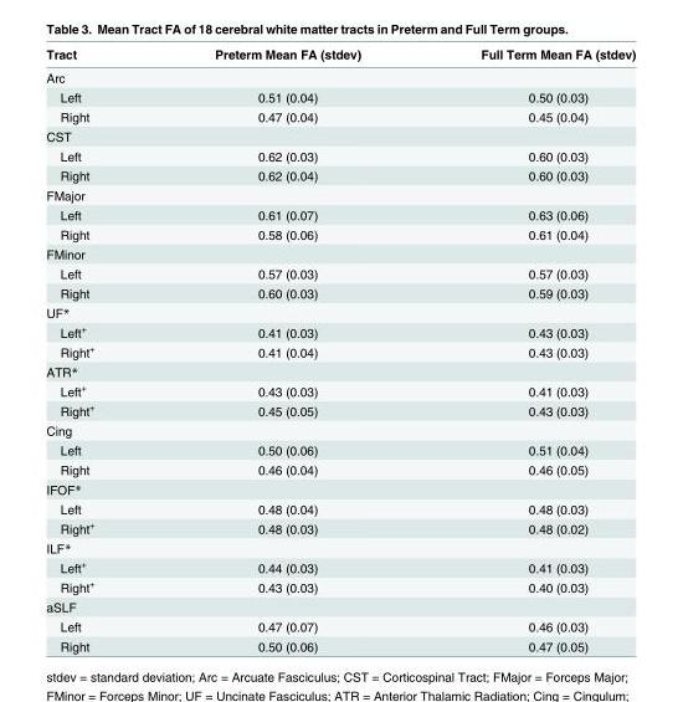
<table><thead><tr><td>Tract</td><td>Preterm Mean FA (stdev)</td><td>Full Term Mean FA (stdev)</td></tr></thead><tbody><tr><td colspan="3">Arc</td></tr><tr><td>Left</td><td>0.51 (0.04)</td><td>0.50 (0.03)</td></tr><tr><td>Right</td><td>0.47 (0.04)</td><td>0.45 (0.04)</td></tr><tr><td colspan="3">CST</td></tr><tr><td>Left</td><td>0.62 (0.03)</td><td>0.60 (0.03)</td></tr><tr><td>Right</td><td>0.62 (0.04)</td><td>0.60 (0.03)</td></tr><tr><td colspan="3">FMajor</td></tr><tr><td>Left</td><td>0.61 (0.07)</td><td>0.63 (0.06)</td></tr><tr><td>Right</td><td>0.58 (0.06)</td><td>0.61 (0.04)</td></tr><tr><td colspan="3">FMinor</td></tr><tr><td>Left</td><td>0.57 (0.03)</td><td>0.57 (0.03)</td></tr><tr><td>Right</td><td>0.60 (0.03)</td><td>0.59 (0.03)</td></tr><tr><td colspan="3">UF*</td></tr><tr><td>Left<sup>+</sup></td><td>0.41 (0.03)</td><td>0.43 (0.03)</td></tr><tr><td>Right<sup>+</sup></td><td>0.41 (0.04)</td><td>0.43 (0.03)</td></tr><tr><td colspan="3">ATR*</td></tr><tr><td>Left<sup>+</sup></td><td>0.43 (0.03)</td><td>0.41 (0.03)</td></tr><tr><td>Right<sup>+</sup></td><td>0.45 (0.05)</td><td>0.43 (0.03)</td></tr><tr><td colspan="3">Cing</td></tr><tr><td>Left</td><td>0.50 (0.06)</td><td>0.51 (0.04)</td></tr><tr><td>Right</td><td>0.46 (0.04)</td><td>0.46 (0.05)</td></tr><tr><td colspan="3">IFOF*</td></tr><tr><td>Left</td><td>0.48 (0.04)</td><td>0.48 (0.03)</td></tr><tr><td>Right<sup>+</sup></td><td>0.48 (0.03)</td><td>0.48 (0.02)</td></tr><tr><td colspan="3">ILF*</td></tr><tr><td>Left<sup>+</sup></td><td>0.44 (0.03)</td><td>0.41 (0.03)</td></tr><tr><td>Right<sup>+</sup></td><td>0.43 (0.03)</td><td>0.40 (0.03)</td></tr><tr><td colspan="3">aSLF</td></tr><tr><td>Left</td><td>0.47 (0.07)</td><td>0.46 (0.03)</td></tr><tr><td>Right</td><td>0.50 (0.06)</td><td>0.47 (0.05)</td></tr></tbody></table>